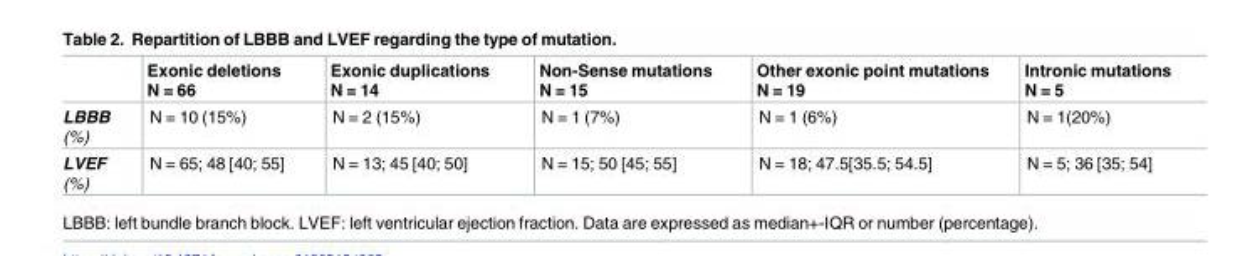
<table><thead><tr><td></td><td>Exonic deletions N = 66</td><td>Exonic duplications N = 14</td><td>Non-Sense mutations N = 15</td><td>Other exonic point mutations N = 19</td><td>Intronic mutations N = 5</td></tr></thead><tbody><tr><td>LBBB (%)</td><td>N = 10 (15%)</td><td>N = 2 (15%)</td><td>N = 1 (7%)</td><td>N = 1 (6%)</td><td>N = 1(20%)</td></tr><tr><td>LVEF (%)</td><td>N = 65; 48 [40; 55]</td><td>N = 13; 45 [40; 50]</td><td>N = 15; 50 [45; 55]</td><td>N = 18; 47.5[35.5; 54.5]</td><td>N = 5; 36 [35; 54]</td></tr></tbody></table>